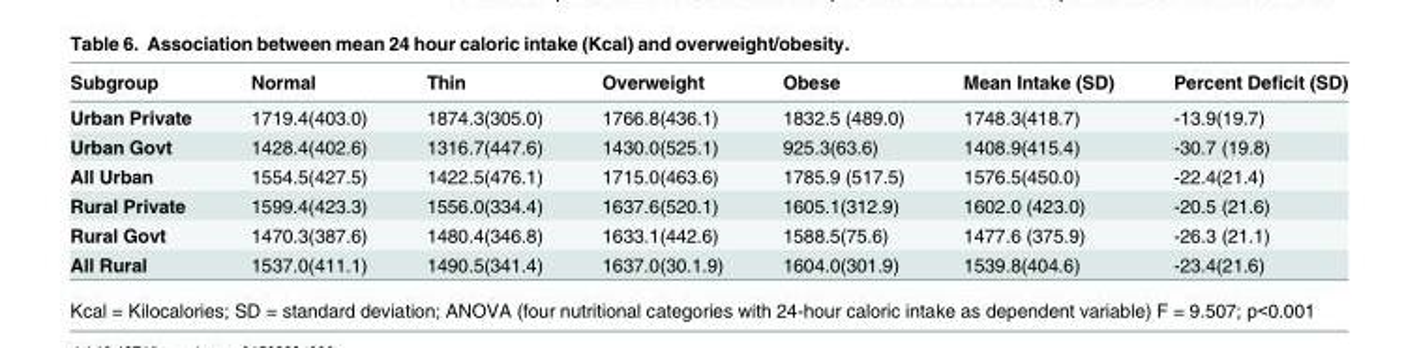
<table><thead><tr><td>Subgroup</td><td>Normal</td><td>Thin</td><td>Overweight</td><td>Obese</td><td>Mean Intake (SD)</td><td>Percent Deficit (SD)</td></tr></thead><tbody><tr><td>Urban Private</td><td>1719.4(403.0)</td><td>1874.3(305.0)</td><td>1766.8(436.1)</td><td>1832.5 (489.0)</td><td>1748.3(418.7)</td><td>-13.9(19.7)</td></tr><tr><td>Urban Govt</td><td>1428.4(402.6)</td><td>1316.7(447.6)</td><td>1430.0(525.1)</td><td>925.3(63.6)</td><td>1408.9(415.4)</td><td>-30.7 (19.8)</td></tr><tr><td>All Urban</td><td>1554.5(427.5)</td><td>1422.5(476.1)</td><td>1715.0(463.6)</td><td>1785.9 (517.5)</td><td>1576.5(450.0)</td><td>-22.4(21.4)</td></tr><tr><td>Rural Private</td><td>1599.4(423.3)</td><td>1556.0(334.4)</td><td>1637.6(520.1)</td><td>1605.1(312.9)</td><td>1602.0 (423.0)</td><td>-20.5 (21.6)</td></tr><tr><td>Rural Govt</td><td>1470.3(387.6)</td><td>1480.4(346.8)</td><td>1633.1(442.6)</td><td>1588.5(75.6)</td><td>1477.6 (375.9)</td><td>-26.3 (21.1)</td></tr><tr><td>All Rural</td><td>1537.0(411.1)</td><td>1490.5(341.4)</td><td>1637.0(30.1.9)</td><td>1604.0(301.9)</td><td>1539.8(404.6)</td><td>-23.4(21.6)</td></tr></tbody></table>